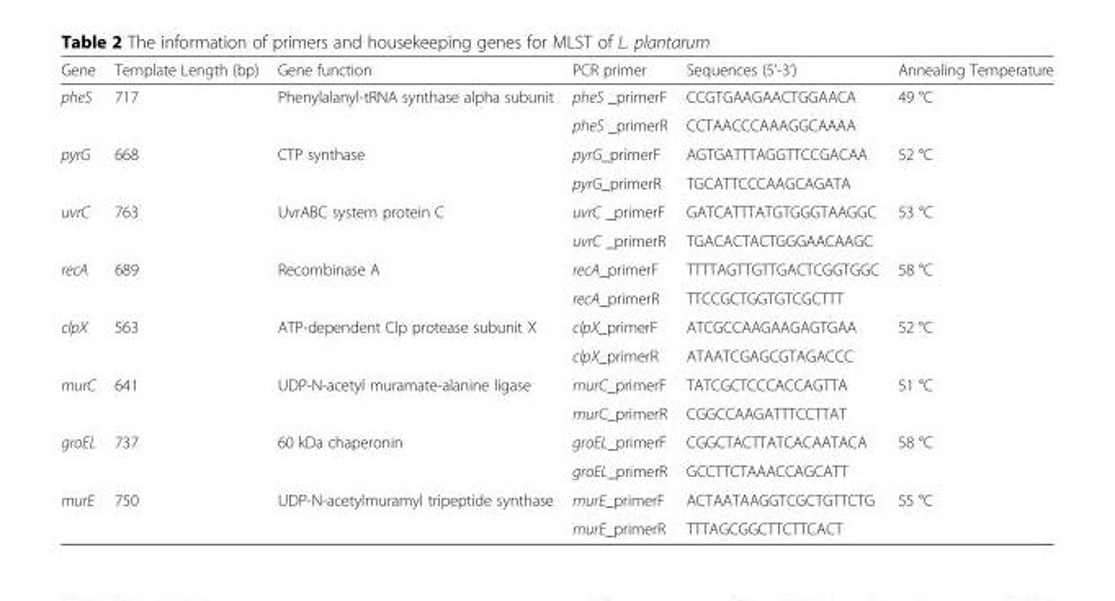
<table><thead><tr><td>Gene</td><td>Template Length (bp)</td><td>Gene function</td><td>PCR primer</td><td>Sequences (5’-3’)</td><td>Annealing Temperature</td></tr></thead><tbody><tr><td rowspan="2">pheS</td><td rowspan="2">717</td><td rowspan="2">Phenylalanyl-tRNA synthase alpha subunit</td><td>pheS _primerF</td><td>CCGTGAAGAACTGGAACA</td><td rowspan="2">49 °C</td></tr><tr><td>pheS _primerR</td><td>CCTAACCCAAAGGCAAAA</td></tr><tr><td rowspan="2">pyrG</td><td rowspan="2">668</td><td rowspan="2">CTP synthase</td><td>pyrG_primerF</td><td>AGTGATTTAGGTTCCGACAA</td><td rowspan="2">52 °C</td></tr><tr><td>pyrG_primerR</td><td>TGCATTCCCAAGCAGATA</td></tr><tr><td rowspan="2">uvrC</td><td rowspan="2">763</td><td rowspan="2">UvrABC system protein C</td><td>uvrC _primerF</td><td>GATCATTTATGTGGGTAAGGC</td><td rowspan="2">53 °C</td></tr><tr><td>uvrC _primerR</td><td>TGACACTACTGGGAACAAGC</td></tr><tr><td rowspan="2">recA</td><td rowspan="2">689</td><td rowspan="2">Recombinase A</td><td>recA_primerF</td><td>TTTTAGTTGTTGACTCGGTGGC</td><td rowspan="2">58 °C</td></tr><tr><td>recA_primerR</td><td>TTCCGCTGGTGTCGCTTT</td></tr><tr><td rowspan="2">clpX</td><td rowspan="2">563</td><td rowspan="2">ATP-dependent Clp protease subunit X</td><td>clpX_primerF</td><td>ATCGCCAAGAAGAGTGAA</td><td rowspan="2">52 °C</td></tr><tr><td>clpX_primerR</td><td>ATAATCGAGCGTAGACCC</td></tr><tr><td rowspan="2">murC</td><td rowspan="2">641</td><td rowspan="2">UDP-N-acetyl muramate-alanine ligase</td><td>murC_primerF</td><td>TATCGCTCCCACCAGTTA</td><td rowspan="2">51 °C</td></tr><tr><td>murC_primerR</td><td>CGGCCAAGATTTCCTTAT</td></tr><tr><td rowspan="2">groEL</td><td rowspan="2">737</td><td rowspan="2">60 kDa chaperonin</td><td>groEL_primerF</td><td>CGGCTACTTATCACAATACA</td><td rowspan="2">58 °C</td></tr><tr><td>groEL_primerR</td><td>GCCTTCTAAACCAGCATT</td></tr><tr><td rowspan="2">murE</td><td rowspan="2">750</td><td rowspan="2">UDP-N-acetylmuramyl tripeptide synthase</td><td>murE_primerF</td><td>ACTAATAAGGTCGCTGTTCTG</td><td rowspan="2">55 °C</td></tr><tr><td>murE_primerR</td><td>TTTAGCGGCTTCTTCACT</td></tr></tbody></table>